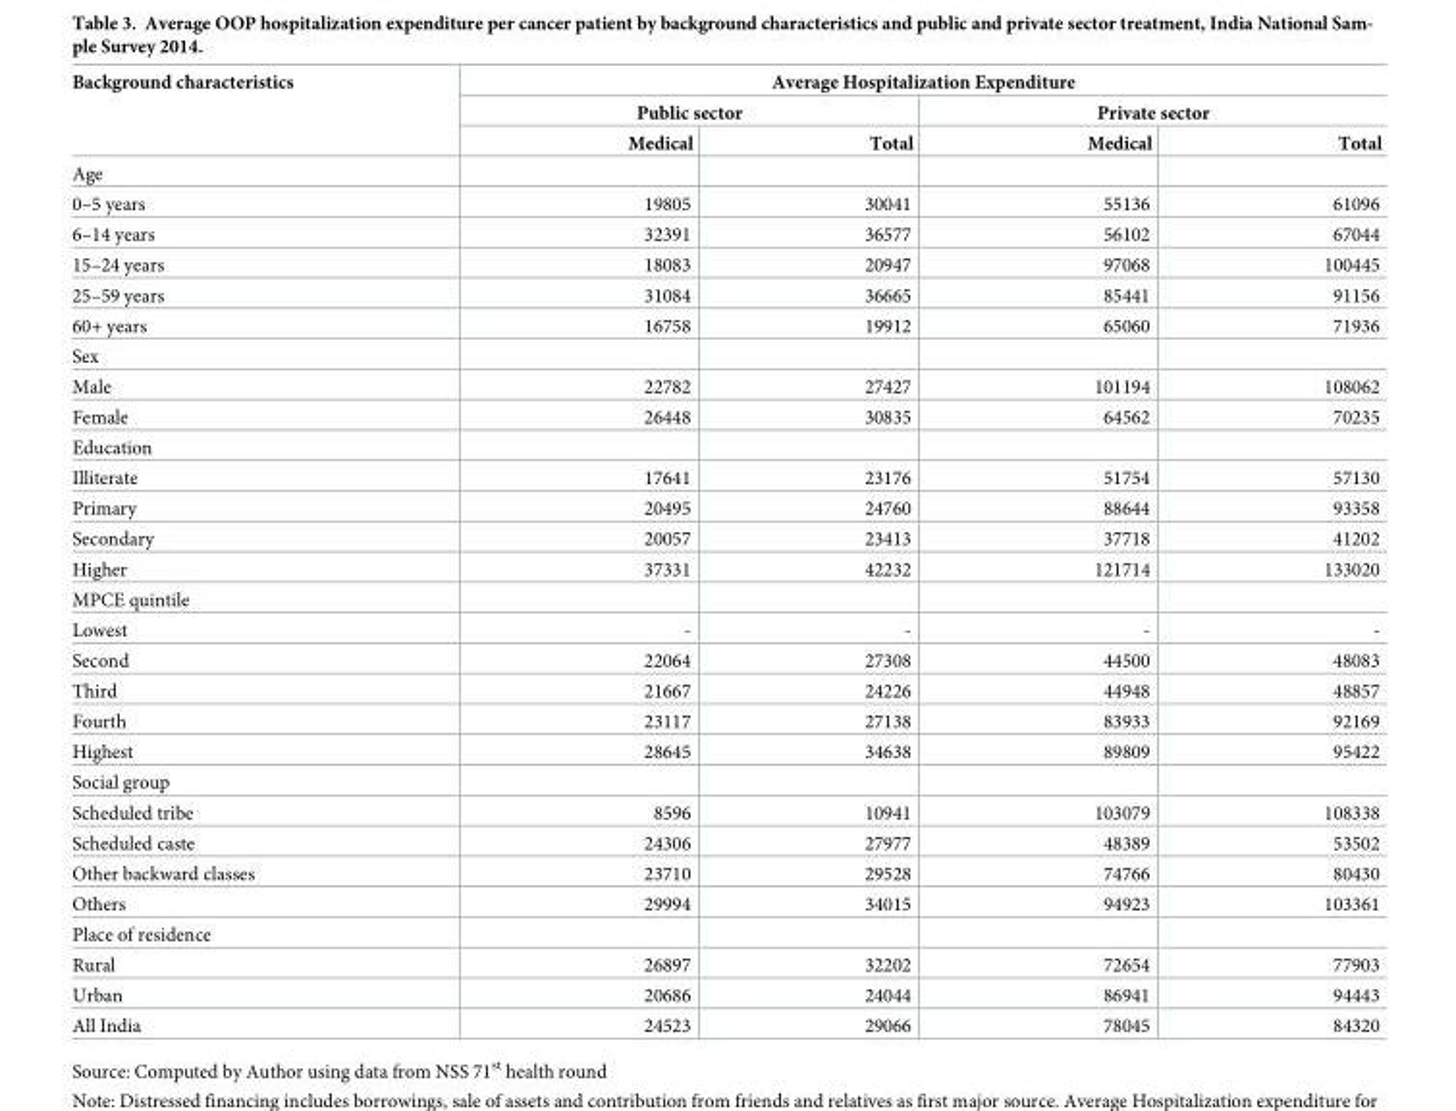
<table><thead><tr><td rowspan="3">Background characteristics</td><td colspan="4">Average Hospitalization Expenditure</td></tr><tr><td colspan="2">Public sector</td><td colspan="2">Private sector</td></tr><tr><td>Medical</td><td>Total</td><td>Medical</td><td>Total</td></tr></thead><tbody><tr><td colspan="5">Age</td></tr><tr><td>0–5 years</td><td>19805</td><td>30041</td><td>55136</td><td>61096</td></tr><tr><td>6–14 years</td><td>32391</td><td>36577</td><td>56102</td><td>67044</td></tr><tr><td>15–24 years</td><td>18083</td><td>20947</td><td>97068</td><td>100445</td></tr><tr><td>25–59 years</td><td>31084</td><td>36665</td><td>85441</td><td>91156</td></tr><tr><td>60+ years</td><td>16758</td><td>19912</td><td>65060</td><td>71936</td></tr><tr><td colspan="5">Sex</td></tr><tr><td>Male</td><td>22782</td><td>27427</td><td>101194</td><td>108062</td></tr><tr><td>Female</td><td>26448</td><td>30835</td><td>64562</td><td>70235</td></tr><tr><td colspan="5">Education</td></tr><tr><td>Illiterate</td><td>17641</td><td>23176</td><td>51754</td><td>57130</td></tr><tr><td>Primary</td><td>20495</td><td>24760</td><td>88644</td><td>93358</td></tr><tr><td>Secondary</td><td>20057</td><td>23413</td><td>37718</td><td>41202</td></tr><tr><td>Higher</td><td>37331</td><td>42232</td><td>121714</td><td>133020</td></tr><tr><td colspan="5">MPCE quintile</td></tr><tr><td>Lowest</td><td>-</td><td>-</td><td>-</td><td>-</td></tr><tr><td>Second</td><td>22064</td><td>27308</td><td>44500</td><td>48083</td></tr><tr><td>Third</td><td>21667</td><td>24226</td><td>44948</td><td>48857</td></tr><tr><td>Fourth</td><td>23117</td><td>27138</td><td>83933</td><td>92169</td></tr><tr><td>Highest</td><td>28645</td><td>34638</td><td>89809</td><td>95422</td></tr><tr><td colspan="5">Social group</td></tr><tr><td>Scheduled tribe</td><td>8596</td><td>10941</td><td>103079</td><td>108338</td></tr><tr><td>Scheduled caste</td><td>24306</td><td>27977</td><td>48389</td><td>53502</td></tr><tr><td>Other backward classes</td><td>23710</td><td>29528</td><td>74766</td><td>80430</td></tr><tr><td>Others</td><td>29994</td><td>34015</td><td>94923</td><td>103361</td></tr><tr><td colspan="5">Place of residence</td></tr><tr><td>Rural</td><td>26897</td><td>32202</td><td>72654</td><td>77903</td></tr><tr><td>Urban</td><td>20686</td><td>24044</td><td>86941</td><td>94443</td></tr><tr><td>All India</td><td>24523</td><td>29066</td><td>78045</td><td>84320</td></tr></tbody></table>